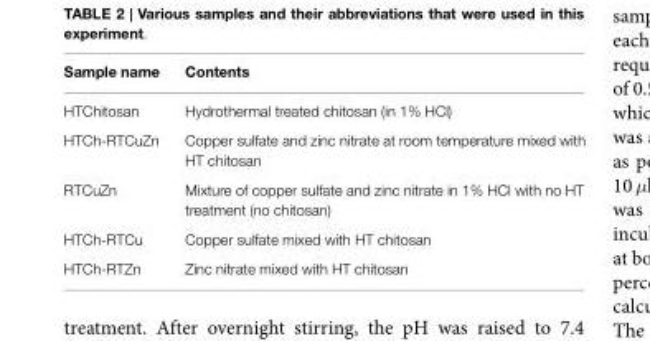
<table><thead><tr><td>Sample name</td><td>Contents</td></tr></thead><tbody><tr><td>HTChitosan</td><td>Hydrothermal treated chitosan (in 1% HCl)</td></tr><tr><td>HTCh-RTCuZn</td><td>Copper sulfate and zinc nitrate at room temperature mixed with HT chitosan</td></tr><tr><td>RTCuZn</td><td>Mixture of copper sulfate and zinc nitrate in 1% HCl with no HT treatment (no chitosan)</td></tr><tr><td>HTCh-RTCu</td><td>Copper sulfate mixed with HT chitosan</td></tr><tr><td>HTCh-RTZn</td><td>Zinc nitrate mixed with HT chitosan</td></tr></tbody></table>